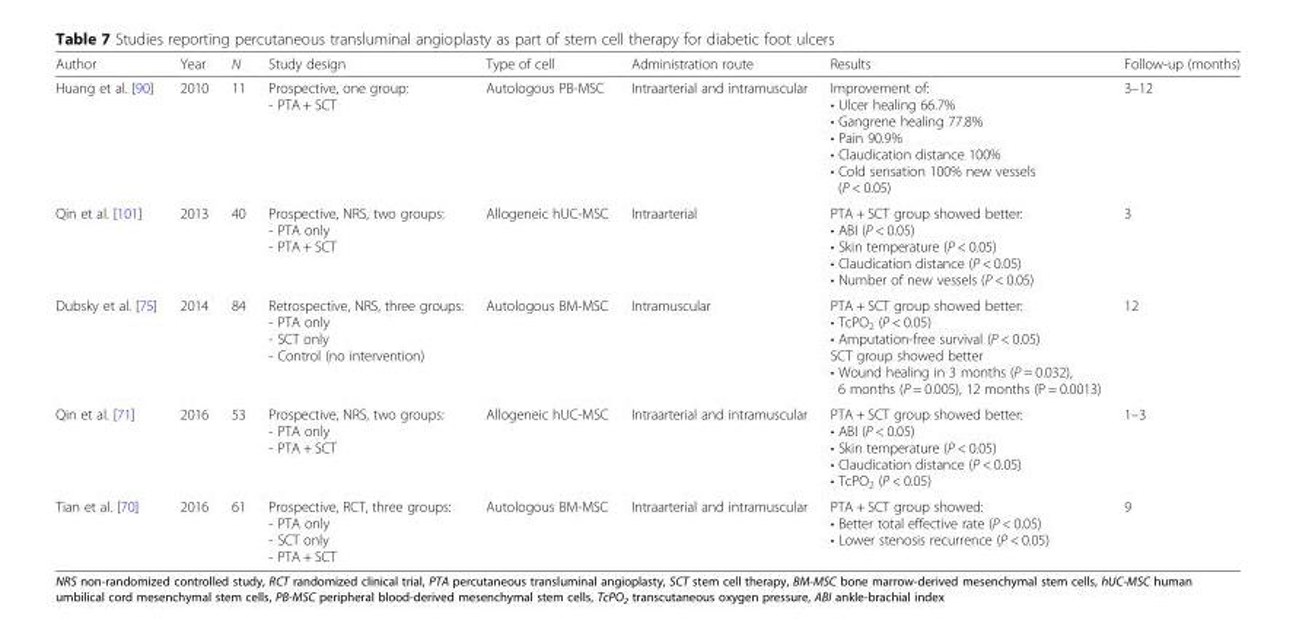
<table><thead><tr><td>Author</td><td>Year</td><td>N</td><td>Study design</td><td>Type of cell</td><td>Administration route</td><td>Results</td><td>Follow-up (months)</td></tr></thead><tbody><tr><td>Huang et al. [90]</td><td>2010</td><td>11</td><td>Prospective, one group: - PTA + SCT</td><td>Autologous PB-MSC</td><td>Intraarterial and intramuscular</td><td>Improvement of: • Ulcer healing 66.7% • Gangrene healing 77.8% • Pain 90.9% • Claudication distance 100% • Cold sensation 100% new vessels (P &lt; 0.05)</td><td>3–12</td></tr><tr><td>Qin et al. [101]</td><td>2013</td><td>40</td><td>Prospective, NRS, two groups: - PTA only - PTA + SCT</td><td>Allogeneic hUC-MSC</td><td>Intraarterial</td><td>PTA + SCT group showed better: • ABI (P &lt; 0.05) • Skin temperature (P &lt; 0.05) • Claudication distance (P &lt; 0.05) • Number of new vessels (P &lt; 0.05)</td><td>3</td></tr><tr><td>Dubsky et al. [75]</td><td>2014</td><td>84</td><td>Retrospective, NRS, three groups: - PTA only - SCT only - Control (no intervention)</td><td>Autologous BM-MSC</td><td>Intramuscular</td><td>PTA + SCT group showed better: • TcPO<sub>2</sub> (P &lt; 0.05) • Amputation-free survival (P &lt; 0.05) SCT group showed better • Wound healing in 3 months (P = 0.032), 6 months (P = 0.005), 12 months (P = 0.0013)</td><td>12</td></tr><tr><td>Qin et al. [71]</td><td>2016</td><td>53</td><td>Prospective, NRS, two groups: - PTA only - PTA + SCT</td><td>Allogeneic hUC-MSC</td><td>Intraarterial and intramuscular</td><td>PTA + SCT group showed better: • ABI (P &lt; 0.05) • Skin temperature (P &lt; 0.05) • Claudication distance (P &lt; 0.05) • TcPO<sub>2</sub> (P &lt; 0.05)</td><td>1–3</td></tr><tr><td>Tian et al. [70]</td><td>2016</td><td>61</td><td>Prospective, RCT, three groups: - PTA only - SCT only - PTA + SCT</td><td>Autologous BM-MSC</td><td>Intraarterial and intramuscular</td><td>PTA + SCT group showed: • Better total effective rate (P &lt; 0.05) • Lower stenosis recurrence (P &lt; 0.05)</td><td>9</td></tr></tbody></table>